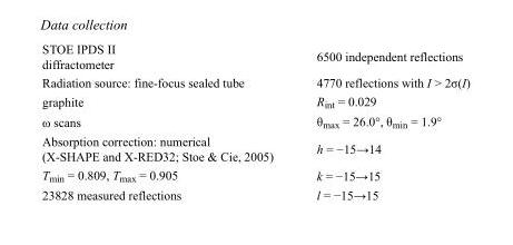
<table><tbody><tr><td>STOE IPDS II diffractometer</td><td>6500 independent reflections</td></tr><tr><td>Radiation source: fine-focus sealed tube</td><td>4770 reflections with I &gt; 2σ(I)</td></tr><tr><td>graphite</td><td>R<sub>int</sub> = 0.029</td></tr><tr><td>ω scans</td><td>θ<sub>max</sub> = 26.0°, θ<sub>min</sub> = 1.9°</td></tr><tr><td>Absorption correction: numerical (X-SHAPE and X-RED32; Stoe &amp; Cie, 2005)</td><td>h = −15→14</td></tr><tr><td>T<sub>min</sub> = 0.809, T<sub>max</sub> = 0.905</td><td>k = −15→15</td></tr><tr><td>23828 measured reflections</td><td>l = −15→15</td></tr></tbody></table>